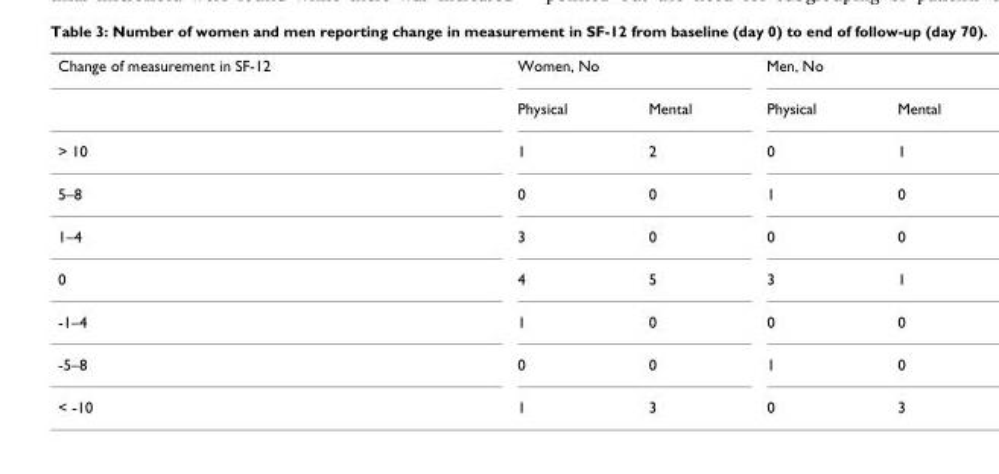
<table><tbody><tr><td rowspan="2">Change of measurement in SF-12</td><td colspan="2">Women, No</td><td colspan="2">Men, No</td></tr><tr><td>Physical</td><td>Mental</td><td>Physical</td><td>Mental</td></tr><tr><td>&gt; 10</td><td>1</td><td>2</td><td>0</td><td>1</td></tr><tr><td>5–8</td><td>0</td><td>0</td><td>1</td><td>0</td></tr><tr><td>1–4</td><td>3</td><td>0</td><td>0</td><td>0</td></tr><tr><td>0</td><td>4</td><td>5</td><td>3</td><td>1</td></tr><tr><td>-1–4</td><td>1</td><td>0</td><td>0</td><td>0</td></tr><tr><td>-5–8</td><td>0</td><td>0</td><td>1</td><td>0</td></tr><tr><td>&lt; -10</td><td>1</td><td>3</td><td>0</td><td>3</td></tr></tbody></table>